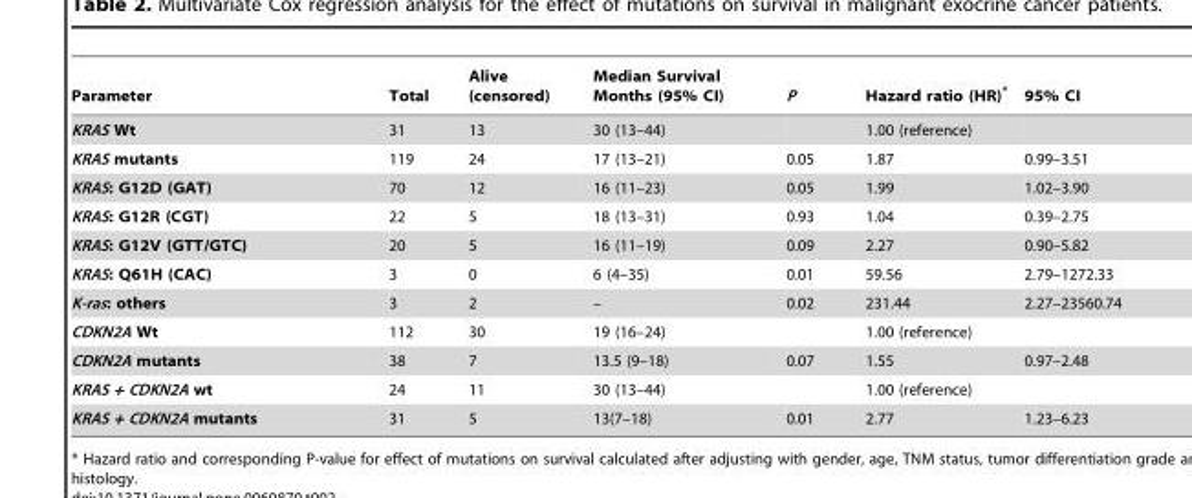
<table><thead><tr><td>Parameter</td><td>Total</td><td>Alive (censored)</td><td>Median Survival Months (95% CI)</td><td>P</td><td>Hazard ratio (HR)*</td><td>95% CI</td></tr></thead><tbody><tr><td>KRAS Wt</td><td>31</td><td>13</td><td>30 (13–44)</td><td></td><td>1.00 (reference)</td><td></td></tr><tr><td>KRAS mutants</td><td>119</td><td>24</td><td>17 (13–21)</td><td>0.05</td><td>1.87</td><td>0.99–3.51</td></tr><tr><td>KRAS: G12D (GAT)</td><td>70</td><td>12</td><td>16 (11–23)</td><td>0.05</td><td>1.99</td><td>1.02–3.90</td></tr><tr><td>KRAS: G12R (CGT)</td><td>22</td><td>5</td><td>18 (13–31)</td><td>0.93</td><td>1.04</td><td>0.39–2.75</td></tr><tr><td>KRAS: G12V (GTT/GTC)</td><td>20</td><td>5</td><td>16 (11–19)</td><td>0.09</td><td>2.27</td><td>0.90–5.82</td></tr><tr><td>KRAS: Q61H (CAC)</td><td>3</td><td>0</td><td>6 (4–35)</td><td>0.01</td><td>59.56</td><td>2.79–1272.33</td></tr><tr><td>K-ras: others</td><td>3</td><td>2</td><td>–</td><td>0.02</td><td>231.44</td><td>2.27–23560.74</td></tr><tr><td>CDKN2A Wt</td><td>112</td><td>30</td><td>19 (16–24)</td><td></td><td>1.00 (reference)</td><td></td></tr><tr><td>CDKN2A mutants</td><td>38</td><td>7</td><td>13.5 (9–18)</td><td>0.07</td><td>1.55</td><td>0.97–2.48</td></tr><tr><td>KRAS + CDKN2A wt</td><td>24</td><td>11</td><td>30 (13–44)</td><td></td><td>1.00 (reference)</td><td></td></tr><tr><td>KRAS + CDKN2A mutants</td><td>31</td><td>5</td><td>13(7–18)</td><td>0.01</td><td>2.77</td><td>1.23–6.23</td></tr></tbody></table>